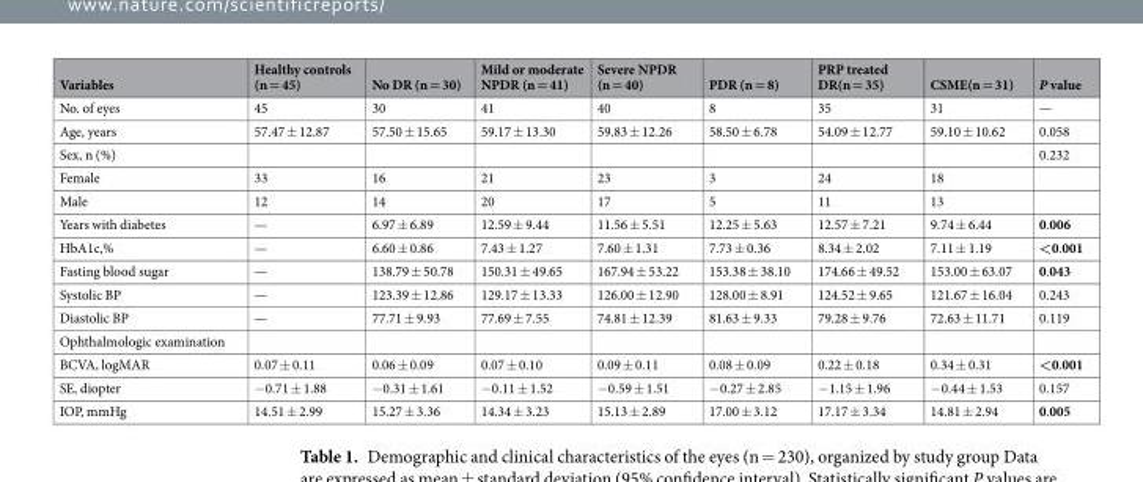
<table><thead><tr><td>Variables</td><td>Healthy controls (n = 45)</td><td>No DR (n = 30)</td><td>Mild or moderate NPDR (n = 41)</td><td>Severe NPDR (n = 40)</td><td>PDR (n = 8)</td><td>PRP treated DR(n = 35)</td><td>CSME(n = 31)</td><td>P value</td></tr></thead><tbody><tr><td>No. of eyes</td><td>45</td><td>30</td><td>41</td><td>40</td><td>8</td><td>35</td><td>31</td><td>—</td></tr><tr><td>Age, years</td><td>57.47 ± 12.87</td><td>57.50 ± 15.65</td><td>59.17 ± 13.30</td><td>59.83 ± 12.26</td><td>58.50 ± 6.78</td><td>54.09 ± 12.77</td><td>59.10 ± 10.62</td><td>0.058</td></tr><tr><td>Sex, n (%)</td><td></td><td></td><td></td><td></td><td></td><td></td><td></td><td>0.232</td></tr><tr><td>Female</td><td>33</td><td>16</td><td>21</td><td>23</td><td>3</td><td>24</td><td>18</td><td></td></tr><tr><td>Male</td><td>12</td><td>14</td><td>20</td><td>17</td><td>5</td><td>11</td><td>13</td><td></td></tr><tr><td>Years with diabetes</td><td>—</td><td>6.97 ± 6.89</td><td>12.59 ± 9.44</td><td>11.56 ± 5.51</td><td>12.25 ± 5.63</td><td>12.57 ± 7.21</td><td>9.74 ± 6.44</td><td>0.006</td></tr><tr><td>HbA1c,%</td><td>—</td><td>6.60 ± 0.86</td><td>7.43 ± 1.27</td><td>7.60 ± 1.31</td><td>7.73 ± 0.36</td><td>8.34 ± 2.02</td><td>7.11 ± 1.19</td><td>&lt;0.001</td></tr><tr><td>Fasting blood sugar</td><td>—</td><td>138.79 ± 50.78</td><td>150.31 ± 49.65</td><td>167.94 ± 53.22</td><td>153.38 ± 38.10</td><td>174.66 ± 49.52</td><td>153.00 ± 63.07</td><td>0.043</td></tr><tr><td>Systolic BP</td><td>—</td><td>123.39 ± 12.86</td><td>129.17 ± 13.33</td><td>126.00 ± 12.90</td><td>128.00 ± 8.91</td><td>124.52 ± 9.65</td><td>121.67 ± 16.04</td><td>0.243</td></tr><tr><td>Diastolic BP</td><td>—</td><td>77.71 ± 9.93</td><td>77.69 ± 7.55</td><td>74.81 ± 12.39</td><td>81.63 ± 9.33</td><td>79.28 ± 9.76</td><td>72.63 ± 11.71</td><td>0.119</td></tr><tr><td colspan="9">Ophthalmologic examination</td></tr><tr><td>BCVA, logMAR</td><td>0.07 ± 0.11</td><td>0.06 ± 0.09</td><td>0.07 ± 0.10</td><td>0.09 ± 0.11</td><td>0.08 ± 0.09</td><td>0.22 ± 0.18</td><td>0.34 ± 0.31</td><td>&lt;0.001</td></tr><tr><td>SE, diopter</td><td>−0.71 ± 1.88</td><td>−0.31 ± 1.61</td><td>−0.11 ± 1.52</td><td>−0.59 ± 1.51</td><td>−0.27 ± 2.85</td><td>−1.15 ± 1.96</td><td>−0.44 ± 1.53</td><td>0.157</td></tr><tr><td>IOP, mmHg</td><td>14.51 ± 2.99</td><td>15.27 ± 3.36</td><td>14.34 ± 3.23</td><td>15.13 ± 2.89</td><td>17.00 ± 3.12</td><td>17.17 ± 3.34</td><td>14.81 ± 2.94</td><td>0.005</td></tr></tbody></table>